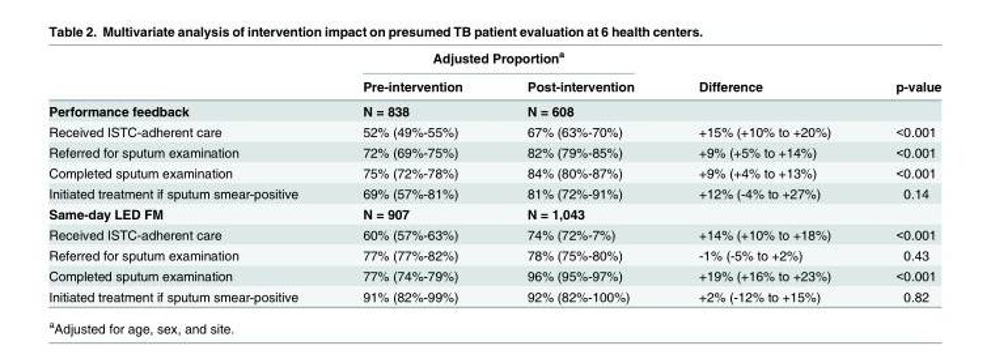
<table><thead><tr><td rowspan="2"></td><td colspan="2">Adjusted Proportion<sup>a</sup></td><td rowspan="2">Difference</td><td rowspan="2">p-value</td></tr><tr><td>Pre-intervention</td><td>Post-intervention</td></tr></thead><tbody><tr><td>Performance feedback</td><td>N = 838</td><td>N = 608</td><td></td><td></td></tr><tr><td>Received ISTC-adherent care</td><td>52% (49%-55%)</td><td>67% (63%-70%)</td><td>+15% (+10% to +20%)</td><td>&lt;0.001</td></tr><tr><td>Referred for sputum examination</td><td>72% (69%-75%)</td><td>82% (79%-85%)</td><td>+9% (+5% to +14%)</td><td>&lt;0.001</td></tr><tr><td>Completed sputum examination</td><td>75% (72%-78%)</td><td>84% (80%-87%)</td><td>+9% (+4% to +13%)</td><td>&lt;0.001</td></tr><tr><td>Initiated treatment if sputum smear-positive</td><td>69% (57%-81%)</td><td>81% (72%-91%)</td><td>+12% (-4% to +27%)</td><td>0.14</td></tr><tr><td>Same-day LED FM</td><td>N = 907</td><td>N = 1,043</td><td></td><td></td></tr><tr><td>Received ISTC-adherent care</td><td>60% (57%-63%)</td><td>74% (72%-7%)</td><td>+14% (+10% to +18%)</td><td>&lt;0.001</td></tr><tr><td>Referred for sputum examination</td><td>77% (77%-82%)</td><td>78% (75%-80%)</td><td>-1% (-5% to +2%)</td><td>0.43</td></tr><tr><td>Completed sputum examination</td><td>77% (74%-79%)</td><td>96% (95%-97%)</td><td>+19% (+16% to +23%)</td><td>&lt;0.001</td></tr><tr><td>Initiated treatment if sputum smear-positive</td><td>91% (82%-99%)</td><td>92% (82%-100%)</td><td>+2% (-12% to +15%)</td><td>0.82</td></tr></tbody></table>